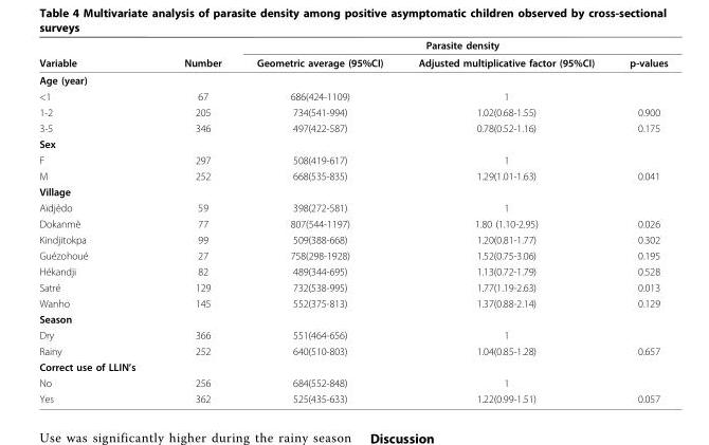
<table><thead><tr><td rowspan="2">Variable</td><td rowspan="2">Number</td><td colspan="3">Parasite density</td></tr><tr><td>Geometric average (95%CI)</td><td>Adjusted multiplicative factor (95%CI)</td><td>p-values</td></tr></thead><tbody><tr><td colspan="5">Age (year)</td></tr><tr><td>&lt;1</td><td>67</td><td>686(424-1109)</td><td>1</td><td></td></tr><tr><td>1-2</td><td>205</td><td>734(541-994)</td><td>1.02(0.68-1.55)</td><td>0.900</td></tr><tr><td>3-5</td><td>346</td><td>497(422-587)</td><td>0.78(0.52-1.16)</td><td>0.175</td></tr><tr><td colspan="5">Sex</td></tr><tr><td>F</td><td>297</td><td>508(419-617)</td><td>1</td><td></td></tr><tr><td>M</td><td>252</td><td>668(535-835)</td><td>1.29(1.01-1.63)</td><td>0.041</td></tr><tr><td colspan="5">Village</td></tr><tr><td>Aïdjèdo</td><td>59</td><td>398(272-581)</td><td>1</td><td></td></tr><tr><td>Dokanmè</td><td>77</td><td>807(544-1197)</td><td>1.80 (1.10-2.95)</td><td>0.026</td></tr><tr><td>Kindjitokpa</td><td>99</td><td>509(388-668)</td><td>1.20(0.81-1.77)</td><td>0.302</td></tr><tr><td>Guézohoué</td><td>27</td><td>758(298-1928)</td><td>1.52(0.75-3.06)</td><td>0.195</td></tr><tr><td>Hékandji</td><td>82</td><td>489(344-695)</td><td>1.13(0.72-1.79)</td><td>0.528</td></tr><tr><td>Satré</td><td>129</td><td>732(538-995)</td><td>1.77(1.19-2.63)</td><td>0.013</td></tr><tr><td>Wanho</td><td>145</td><td>552(375-813)</td><td>1.37(0.88-2.14)</td><td>0.129</td></tr><tr><td colspan="5">Season</td></tr><tr><td>Dry</td><td>366</td><td>551(464-656)</td><td>1</td><td></td></tr><tr><td>Rainy</td><td>252</td><td>640(510-803)</td><td>1.04(0.85-1.28)</td><td>0.657</td></tr><tr><td colspan="5">Correct use of LLIN’s</td></tr><tr><td>No</td><td>256</td><td>684(552-848)</td><td>1</td><td></td></tr><tr><td>Yes</td><td>362</td><td>525(435-633)</td><td>1.22(0.99-1.51)</td><td>0.057</td></tr></tbody></table>